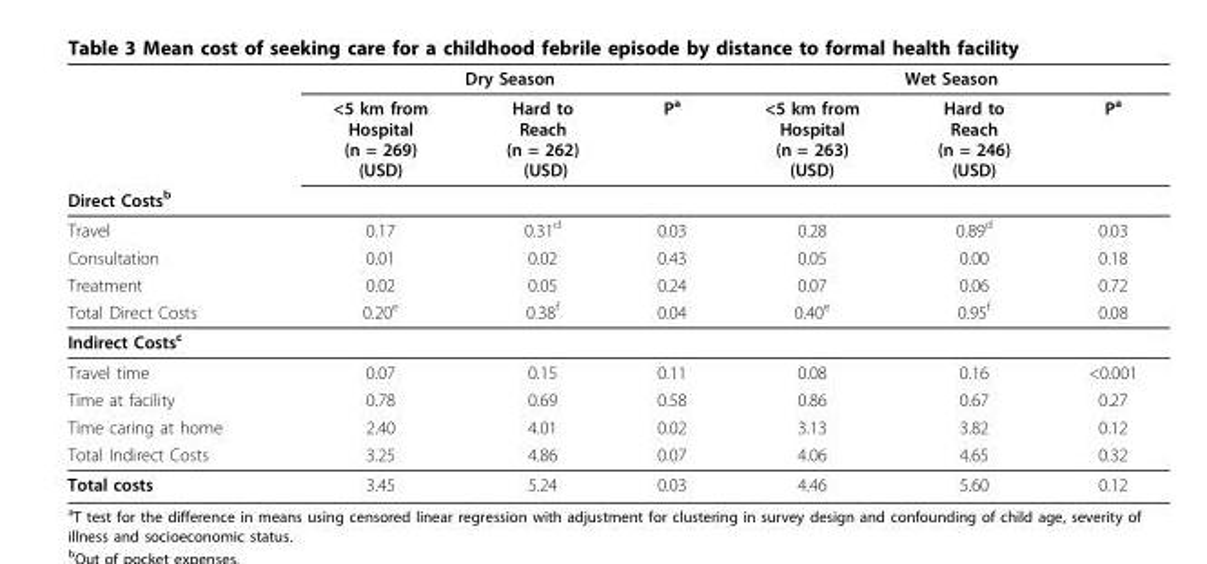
<table><thead><tr><td rowspan="3">Direct Costs<sup>b</sup></td><td colspan="3">Dry Season</td><td colspan="3">Wet Season</td></tr><tr><td rowspan="2">&lt;5 km from Hospital (n = 269) (USD)</td><td rowspan="2">Hard to Reach (n = 262) (USD)</td><td rowspan="2">P<sup>a</sup></td><td rowspan="2">&lt;5 km from Hospital (n = 263) (USD)</td><td rowspan="2">Hard to Reach (n = 246) (USD)</td><td rowspan="2">P<sup>a</sup></td></tr><tr></tr></thead><tbody><tr><td>Travel</td><td>0.17</td><td>0.31<sup>d</sup></td><td>0.03</td><td>0.28</td><td>0.89<sup>d</sup></td><td>0.03</td></tr><tr><td>Consultation</td><td>0.01</td><td>0.02</td><td>0.43</td><td>0.05</td><td>0.00</td><td>0.18</td></tr><tr><td>Treatment</td><td>0.02</td><td>0.05</td><td>0.24</td><td>0.07</td><td>0.06</td><td>0.72</td></tr><tr><td>Total Direct Costs</td><td>0.20<sup>e</sup></td><td>0.38<sup>f</sup></td><td>0.04</td><td>0.40<sup>e</sup></td><td>0.95<sup>f</sup></td><td>0.08</td></tr><tr><td colspan="7">Indirect Costs<sup>c</sup></td></tr><tr><td>Travel time</td><td>0.07</td><td>0.15</td><td>0.11</td><td>0.08</td><td>0.16</td><td>&lt;0.001</td></tr><tr><td>Time at facility</td><td>0.78</td><td>0.69</td><td>0.58</td><td>0.86</td><td>0.67</td><td>0.27</td></tr><tr><td>Time caring at home</td><td>2.40</td><td>4.01</td><td>0.02</td><td>3.13</td><td>3.82</td><td>0.12</td></tr><tr><td>Total Indirect Costs</td><td>3.25</td><td>4.86</td><td>0.07</td><td>4.06</td><td>4.65</td><td>0.32</td></tr><tr><td>Total costs</td><td>3.45</td><td>5.24</td><td>0.03</td><td>4.46</td><td>5.60</td><td>0.12</td></tr></tbody></table>